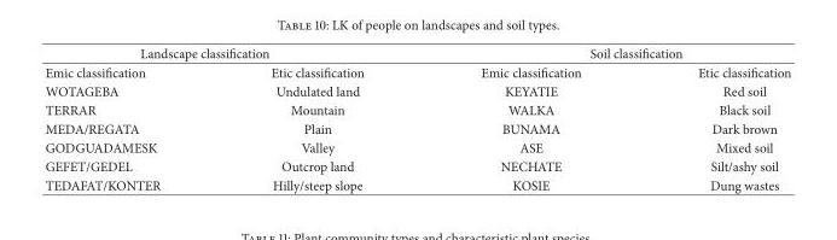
<table><thead><tr><td colspan="2">Landscape classification</td><td colspan="2">Soil classification</td></tr><tr><td>Emic classification</td><td>Etic classification</td><td>Emic classification</td><td>Etic classification</td></tr></thead><tbody><tr><td>WOTAGEBA</td><td>Undulated land</td><td>KEYATIE</td><td>Red soil</td></tr><tr><td>TERRAR</td><td>Mountain</td><td>WALKA</td><td>Black soil</td></tr><tr><td>MEDA/REGATA</td><td>Plain</td><td>BUNAMA</td><td>Dark brown</td></tr><tr><td>GODGUADAMESK</td><td>Valley</td><td>ASE</td><td>Mixed soil</td></tr><tr><td>GEFET/GEDEL</td><td>Outcrop land</td><td>NECHATE</td><td>Silt/ashy soil</td></tr><tr><td>TEDAFAT/KONTER</td><td>Hilly/steep slope</td><td>KOSIE</td><td>Dung wastes</td></tr></tbody></table>